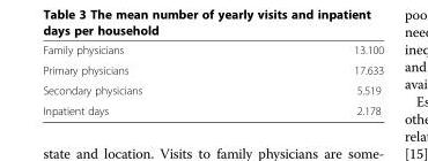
<table><tbody><tr><td>Family physicians</td><td>13.100</td></tr><tr><td>Primary physicians</td><td>17.633</td></tr><tr><td>Secondary physicians</td><td>5.519</td></tr><tr><td>Inpatient days</td><td>2.178</td></tr></tbody></table>